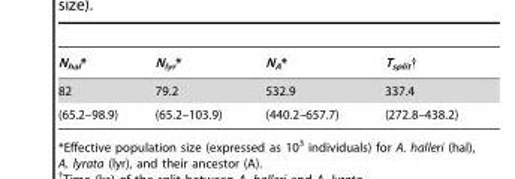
<table><thead><tr><td>N<sub>hal</sub>*</td><td>N<sub>lyr</sub>*</td><td>N<sub>A</sub>*</td><td>T<sub>split</sub>†</td></tr></thead><tbody><tr><td>82</td><td>79.2</td><td>532.9</td><td>337.4</td></tr><tr><td>(65.2–98.9)</td><td>(65.2–103.9)</td><td>(440.2–657.7)</td><td>(272.8–438.2)</td></tr></tbody></table>